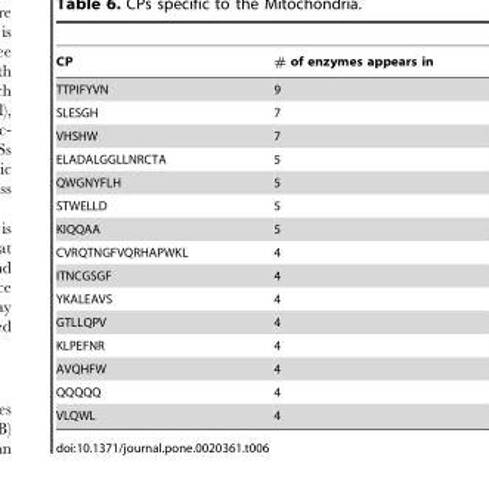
<table><thead><tr><td>CP</td><td># of enzymes appears in</td></tr></thead><tbody><tr><td>TTPIFYVN</td><td>9</td></tr><tr><td>SLESGH</td><td>7</td></tr><tr><td>VHSHW</td><td>7</td></tr><tr><td>ELADALGGLLNRCTA</td><td>5</td></tr><tr><td>QWGNYFLH</td><td>5</td></tr><tr><td>STWELLD</td><td>5</td></tr><tr><td>KIQQAA</td><td>5</td></tr><tr><td>CVRQTNGFVQRHAPWKL</td><td>4</td></tr><tr><td>ITNCGSGF</td><td>4</td></tr><tr><td>YKALEAVS</td><td>4</td></tr><tr><td>GTLLQPV</td><td>4</td></tr><tr><td>KLPEFNR</td><td>4</td></tr><tr><td>AVQHFW</td><td>4</td></tr><tr><td>QQQQQ</td><td>4</td></tr><tr><td>VLQWL</td><td>4</td></tr></tbody></table>